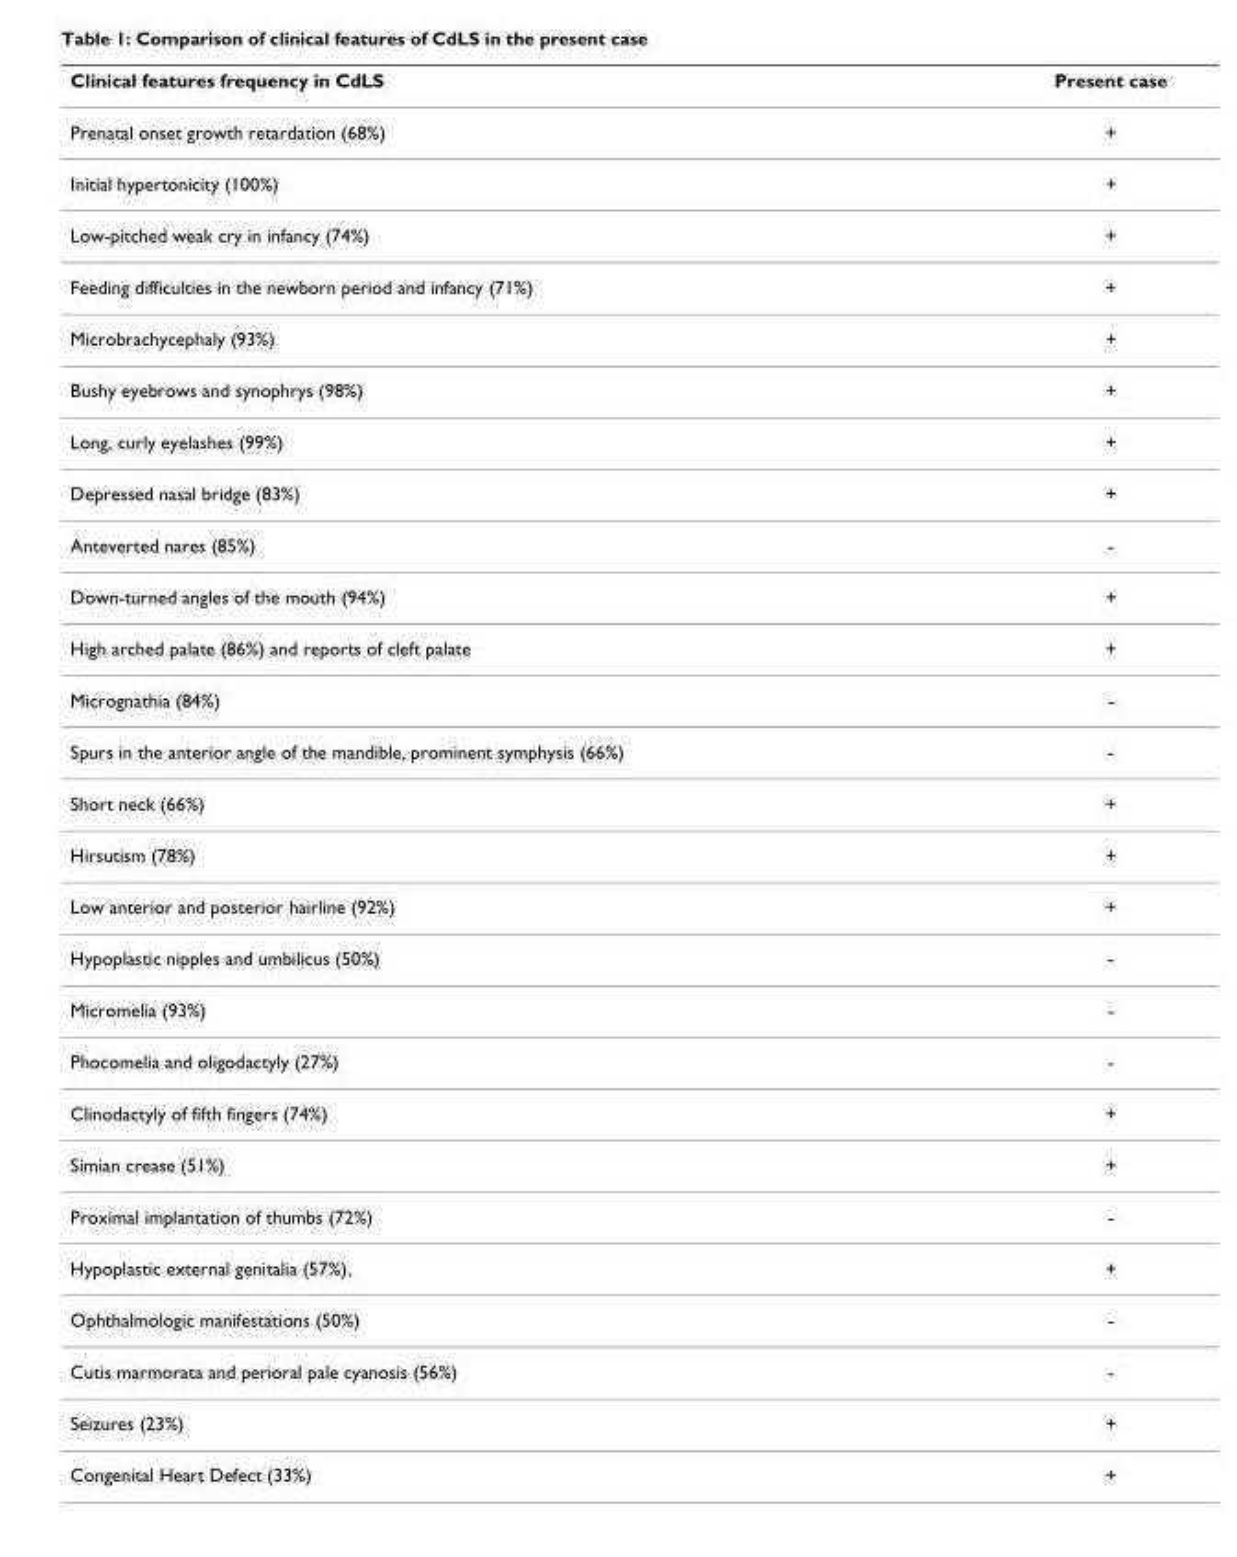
<table><thead><tr><td>Clinical features frequency in CdLS</td><td>Present case</td></tr></thead><tbody><tr><td>Prenatal onset growth retardation (68%)</td><td>+</td></tr><tr><td>Initial hypertonicity (100%)</td><td>+</td></tr><tr><td>Low-pitched weak cry in infancy (74%)</td><td>+</td></tr><tr><td>Feeding difficulties in the newborn period and infancy (71%)</td><td>+</td></tr><tr><td>Microbrachycephaly (93%)</td><td>+</td></tr><tr><td>Bushy eyebrows and synophrys (98%)</td><td>+</td></tr><tr><td>Long, curly eyelashes (99%)</td><td>+</td></tr><tr><td>Depressed nasal bridge (83%)</td><td>+</td></tr><tr><td>Anteverted nares (85%)</td><td>-</td></tr><tr><td>Down-turned angles of the mouth (94%)</td><td>+</td></tr><tr><td>High arched palate (86%) and reports of cleft palate</td><td>+</td></tr><tr><td>Micrognathia (84%)</td><td>-</td></tr><tr><td>Spurs in the anterior angle of the mandible, prominent symphysis (66%)</td><td>-</td></tr><tr><td>Short neck (66%)</td><td>+</td></tr><tr><td>Hirsutism (78%)</td><td>+</td></tr><tr><td>Low anterior and posterior hairline (92%)</td><td>+</td></tr><tr><td>Hypoplastic nipples and umbilicus (50%)</td><td>-</td></tr><tr><td>Micromelia (93%)</td><td>-</td></tr><tr><td>Phocomelia and oligodactyly (27%)</td><td>-</td></tr><tr><td>Clinodactyly of fifth fingers (74%)</td><td>+</td></tr><tr><td>Simian crease (51%)</td><td>+</td></tr><tr><td>Proximal implantation of thumbs (72%)</td><td>-</td></tr><tr><td>Hypoplastic external genitalia (57%),</td><td>+</td></tr><tr><td>Ophthalmologic manifestations (50%)</td><td>-</td></tr><tr><td>Cutis marmorata and perioral pale cyanosis (56%)</td><td>-</td></tr><tr><td>Seizures (23%)</td><td>+</td></tr><tr><td>Congenital Heart Defect (33%)</td><td>+</td></tr></tbody></table>